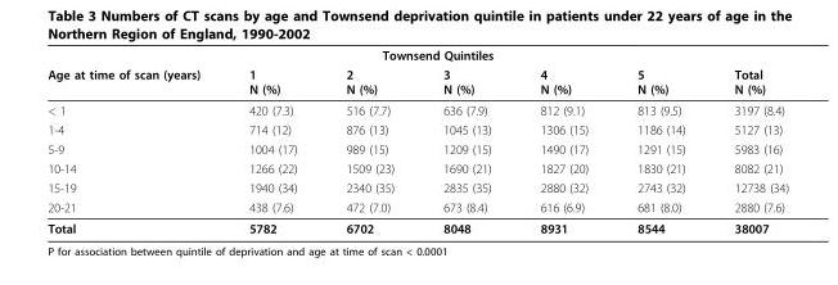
<table><thead><tr><td colspan="7">Townsend Quintiles</td></tr><tr><td>Age at time of scan (years)</td><td>1 N (%)</td><td>2 N (%)</td><td>3 N (%)</td><td>4 N (%)</td><td>5 N (%)</td><td>Total N (%)</td></tr></thead><tbody><tr><td>&lt; 1</td><td>420 (7.3)</td><td>516 (7.7)</td><td>636 (7.9)</td><td>812 (9.1)</td><td>813 (9.5)</td><td>3197 (8.4)</td></tr><tr><td>1-4</td><td>714 (12)</td><td>876 (13)</td><td>1045 (13)</td><td>1306 (15)</td><td>1186 (14)</td><td>5127 (13)</td></tr><tr><td>5-9</td><td>1004 (17)</td><td>989 (15)</td><td>1209 (15)</td><td>1490 (17)</td><td>1291 (15)</td><td>5983 (16)</td></tr><tr><td>10-14</td><td>1266 (22)</td><td>1509 (23)</td><td>1690 (21)</td><td>1827 (20)</td><td>1830 (21)</td><td>8082 (21)</td></tr><tr><td>15-19</td><td>1940 (34)</td><td>2340 (35)</td><td>2835 (35)</td><td>2880 (32)</td><td>2743 (32)</td><td>12738 (34)</td></tr><tr><td>20-21</td><td>438 (7.6)</td><td>472 (7.0)</td><td>673 (8.4)</td><td>616 (6.9)</td><td>681 (8.0)</td><td>2880 (7.6)</td></tr><tr><td>Total</td><td>5782</td><td>6702</td><td>8048</td><td>8931</td><td>8544</td><td>38007</td></tr></tbody></table>